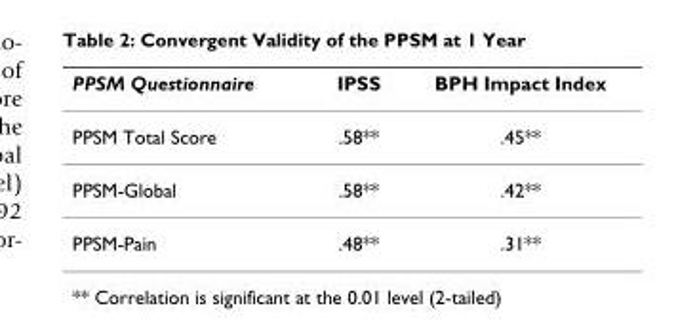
<table><thead><tr><td>PPSM Questionnaire</td><td>IPSS</td><td>BPH Impact Index</td></tr></thead><tbody><tr><td>PPSM Total Score</td><td>.58**</td><td>.45**</td></tr><tr><td>PPSM-Global</td><td>.58**</td><td>.42**</td></tr><tr><td>PPSM-Pain</td><td>.48**</td><td>.31**</td></tr></tbody></table>